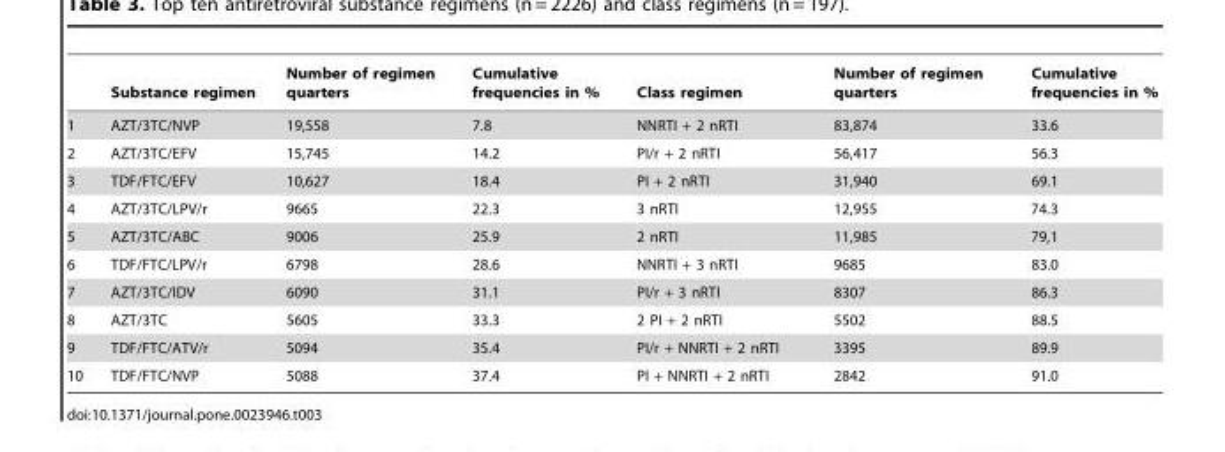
<table><thead><tr><td></td><td>Substance regimen</td><td>Number of regimen quarters</td><td>Cumulative frequencies in %</td><td>Class regimen</td><td>Number of regimen quarters</td><td>Cumulative frequencies in %</td></tr></thead><tbody><tr><td>1</td><td>AZT/3TC/NVP</td><td>19,558</td><td>7.8</td><td>NNRTI + 2 nRTI</td><td>83,874</td><td>33.6</td></tr><tr><td>2</td><td>AZT/3TC/EFV</td><td>15,745</td><td>14.2</td><td>PI/r + 2 nRTI</td><td>56,417</td><td>56.3</td></tr><tr><td>3</td><td>TDF/FTC/EFV</td><td>10,627</td><td>18.4</td><td>PI + 2 nRTI</td><td>31,940</td><td>69.1</td></tr><tr><td>4</td><td>AZT/3TC/LPV/r</td><td>9665</td><td>22.3</td><td>3 nRTI</td><td>12,955</td><td>74.3</td></tr><tr><td>5</td><td>AZT/3TC/ABC</td><td>9006</td><td>25.9</td><td>2 nRTI</td><td>11,985</td><td>79,1</td></tr><tr><td>6</td><td>TDF/FTC/LPV/r</td><td>6798</td><td>28.6</td><td>NNRTI + 3 nRTI</td><td>9685</td><td>83.0</td></tr><tr><td>7</td><td>AZT/3TC/IDV</td><td>6090</td><td>31.1</td><td>PI/r + 3 nRTI</td><td>8307</td><td>86.3</td></tr><tr><td>8</td><td>AZT/3TC</td><td>5605</td><td>33.3</td><td>2 PI + 2 nRTI</td><td>5502</td><td>88.5</td></tr><tr><td>9</td><td>TDF/FTC/ATV/r</td><td>5094</td><td>35.4</td><td>PI/r + NNRTI + 2 nRTI</td><td>3395</td><td>89.9</td></tr><tr><td>10</td><td>TDF/FTC/NVP</td><td>5088</td><td>37.4</td><td>PI + NNRTI + 2 nRTI</td><td>2842</td><td>91.0</td></tr></tbody></table>